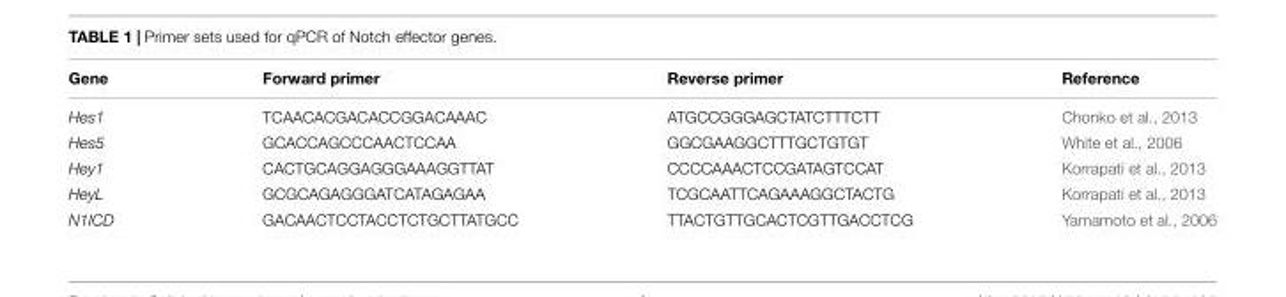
<table><thead><tr><td>Gene</td><td>Forward primer</td><td>Reverse primer</td><td>Reference</td></tr></thead><tbody><tr><td>Hes1</td><td>TCAACACGACACCGGACAAAC</td><td>ATGCCGGGAGCTATCTTTCTT</td><td>Chonko et al., 2013</td></tr><tr><td>Hes5</td><td>GCACCAGCCCAACTCCAA</td><td>GGCGAAGGCTTTGCTGTGT</td><td>White et al., 2006</td></tr><tr><td>Hey1</td><td>CACTGCAGGAGGGAAAGGTTAT</td><td>CCCCAAACTCCGATAGTCCAT</td><td>Korrapati et al., 2013</td></tr><tr><td>HeyL</td><td>GCGCAGAGGGATCATAGAGAA</td><td>TCGCAATTCAGAAAGGCTACTG</td><td>Korrapati et al., 2013</td></tr><tr><td>N1ICD</td><td>GACAACTCCTACCTCTGCTTATGCC</td><td>TTACTGTTGCACTCGTTGACCTCG</td><td>Yamamoto et al., 2006</td></tr></tbody></table>